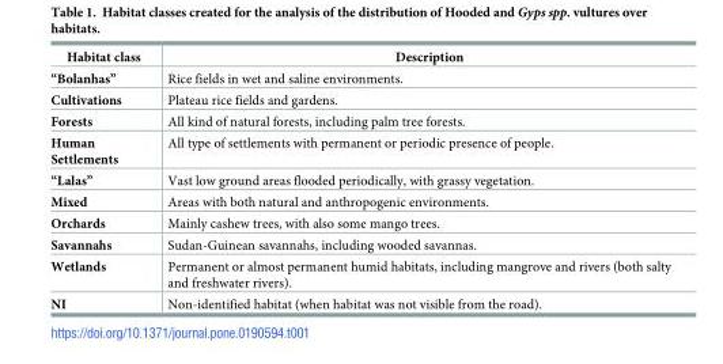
<table><thead><tr><td>Habitat class</td><td>Description</td></tr></thead><tbody><tr><td>“Bolanhas”</td><td>Rice fields in wet and saline environments.</td></tr><tr><td>Cultivations</td><td>Plateau rice fields and gardens.</td></tr><tr><td>Forests</td><td>All kind of natural forests, including palm tree forests.</td></tr><tr><td>Human Settlements</td><td>All type of settlements with permanent or periodic presence of people.</td></tr><tr><td>“Lalas”</td><td>Vast low ground areas flooded periodically, with grassy vegetation.</td></tr><tr><td>Mixed</td><td>Areas with both natural and anthropogenic environments.</td></tr><tr><td>Orchards</td><td>Mainly cashew trees, with also some mango trees.</td></tr><tr><td>Savannahs</td><td>Sudan-Guinean savannahs, including wooded savannas.</td></tr><tr><td>Wetlands</td><td>Permanent or almost permanent humid habitats, including mangrove and rivers (both salty and freshwater rivers).</td></tr><tr><td>NI</td><td>Non-identified habitat (when habitat was not visible from the road).</td></tr></tbody></table>